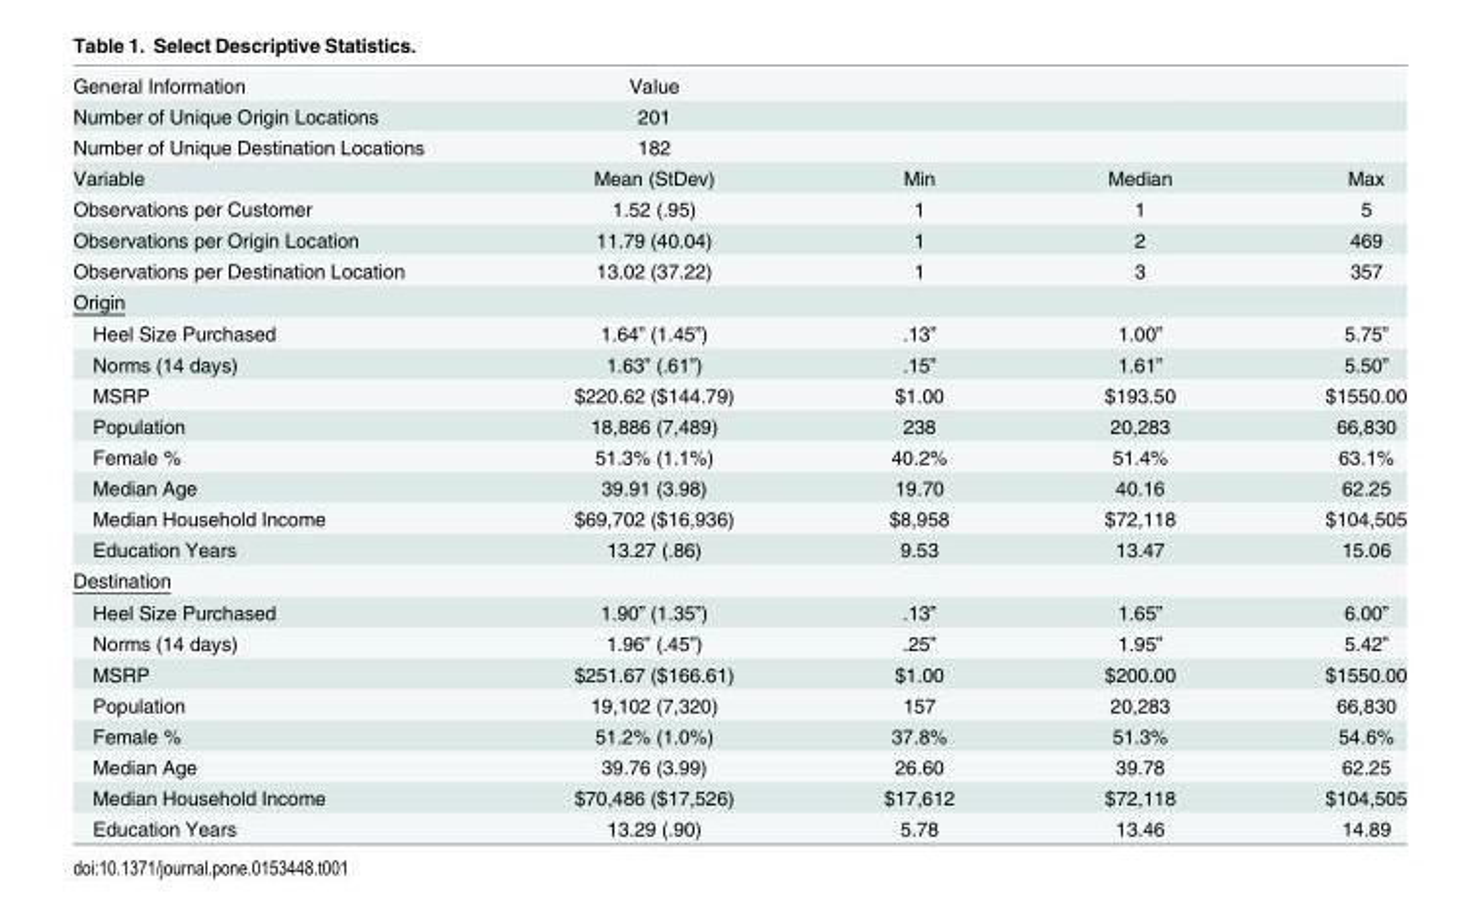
<table><tbody><tr><td>General Information</td><td>Value</td><td></td><td></td><td></td></tr><tr><td>Number of Unique Origin Locations</td><td>201</td><td></td><td></td><td></td></tr><tr><td>Number of Unique Destination Locations</td><td>182</td><td></td><td></td><td></td></tr><tr><td>Variable</td><td>Mean (StDev)</td><td>Min</td><td>Median</td><td>Max</td></tr><tr><td>Observations per Customer</td><td>1.52 (.95)</td><td>1</td><td>1</td><td>5</td></tr><tr><td>Observations per Origin Location</td><td>11.79 (40.04)</td><td>1</td><td>2</td><td>469</td></tr><tr><td>Observations per Destination Location</td><td>13.02 (37.22)</td><td>1</td><td>3</td><td>357</td></tr><tr><td colspan="5">Origin</td></tr><tr><td>Heel Size Purchased</td><td>1.64” (1.45”)</td><td>.13”</td><td>1.00”</td><td>5.75”</td></tr><tr><td>Norms (14 days)</td><td>1.63” (.61”)</td><td>.15”</td><td>1.61”</td><td>5.50”</td></tr><tr><td>MSRP</td><td>$220.62 ($144.79)</td><td>$1.00</td><td>$193.50</td><td>$1550.00</td></tr><tr><td>Population</td><td>18,886 (7,489)</td><td>238</td><td>20,283</td><td>66,830</td></tr><tr><td>Female %</td><td>51.3% (1.1%)</td><td>40.2%</td><td>51.4%</td><td>63.1%</td></tr><tr><td>Median Age</td><td>39.91 (3.98)</td><td>19.70</td><td>40.16</td><td>62.25</td></tr><tr><td>Median Household Income</td><td>$69,702 ($16,936)</td><td>$8,958</td><td>$72,118</td><td>$104,505</td></tr><tr><td>Education Years</td><td>13.27 (.86)</td><td>9.53</td><td>13.47</td><td>15.06</td></tr><tr><td colspan="5">Destination</td></tr><tr><td>Heel Size Purchased</td><td>1.90” (1.35”)</td><td>.13”</td><td>1.65”</td><td>6.00”</td></tr><tr><td>Norms (14 days)</td><td>1.96” (.45”)</td><td>.25”</td><td>1.95”</td><td>5.42”</td></tr><tr><td>MSRP</td><td>$251.67 ($166.61)</td><td>$1.00</td><td>$200.00</td><td>$1550.00</td></tr><tr><td>Population</td><td>19,102 (7,320)</td><td>157</td><td>20,283</td><td>66,830</td></tr><tr><td>Female %</td><td>51.2% (1.0%)</td><td>37.8%</td><td>51.3%</td><td>54.6%</td></tr><tr><td>Median Age</td><td>39.76 (3.99)</td><td>26.60</td><td>39.78</td><td>62.25</td></tr><tr><td>Median Household Income</td><td>$70,486 ($17,526)</td><td>$17,612</td><td>$72,118</td><td>$104,505</td></tr><tr><td>Education Years</td><td>13.29 (.90)</td><td>5.78</td><td>13.46</td><td>14.89</td></tr></tbody></table>